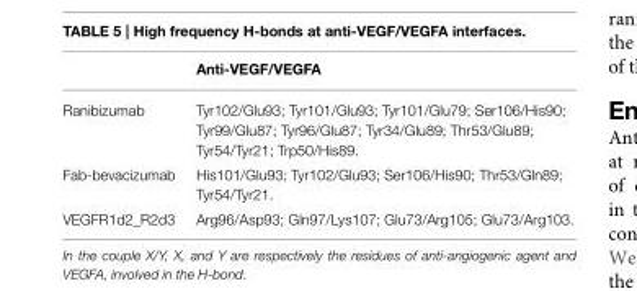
<table><thead><tr><td></td><td>Anti-VEGF/VEGFA</td></tr></thead><tbody><tr><td>Ranibizumab</td><td>Tyr102/Glu93; Tyr101/Glu93; Tyr101/Glu79; Ser106/His90; Tyr99/Glu87; Tyr96/Glu87; Tyr34/Glu89; Thr53/Glu89; Tyr54/Tyr21; Trp50/His89.</td></tr><tr><td>Fab-bevacizumab</td><td>His101/Glu93; Tyr102/Glu93; Ser106/His90; Thr53/Gln89; Tyr54/Tyr21.</td></tr><tr><td>VEGFR1d2_R2d3</td><td>Arg96/Asp93; Gln97/Lys107; Glu73/Arg105; Glu73/Arg103.</td></tr></tbody></table>